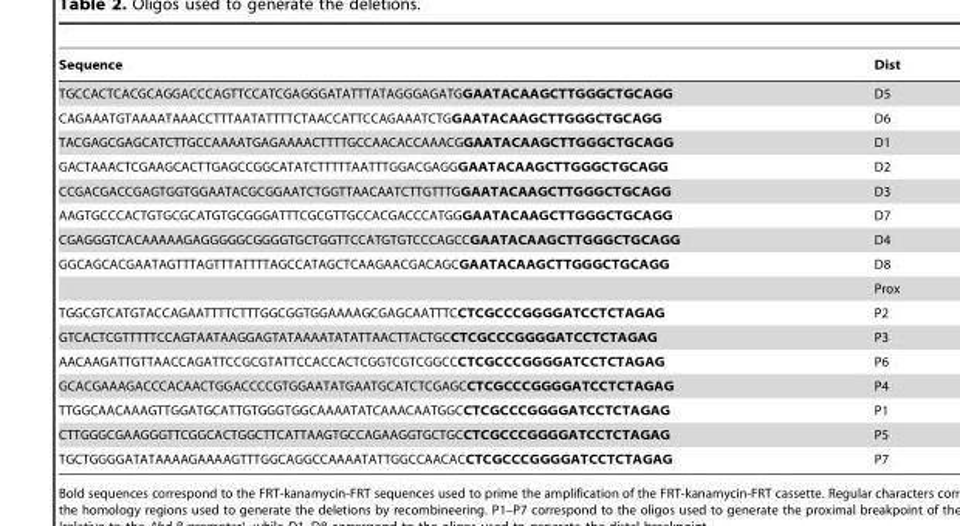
<table><thead><tr><td>Sequence</td><td>Dist</td></tr></thead><tbody><tr><td>TGCCACTCACGCAGGACCCAGTTCCATCGAGGGATATTTATAGGGAGATGGAATACAAGCTTGGGCTGCAGG</td><td>D5</td></tr><tr><td>CAGAAATGTAAAATAAACCTTTAATATTTTCTAACCATTCCAGAAATCTGGAATACAAGCTTGGGCTGCAGG</td><td>D6</td></tr><tr><td>TACGAGCGAGCATCTTGCCAAAATGAGAAAACTTTTGCCAACACCAAACGGAATACAAGCTTGGGCTGCAGG</td><td>D1</td></tr><tr><td>GACTAAACTCGAAGCACTTGAGCCGGCATATCTTTTTAATTTGGACGAGGGAATACAAGCTTGGGCTGCAGG</td><td>D2</td></tr><tr><td>CCGACGACCGAGTGGTGGAATACGCGGAATCTGGTTAACAATCTTGTTTGGAATACAAGCTTGGGCTGCAGG</td><td>D3</td></tr><tr><td>AAGTGCCCACTGTGCGCATGTGCGGGATTTCGCGTTGCCACGACCCATGGGAATACAAGCTTGGGCTGCAGG</td><td>D7</td></tr><tr><td>CGAGGGTCACAAAAAGAGGGGGCGGGGTGCTGGTTCCATGTGTCCCAGCCGAATACAAGCTTGGGCTGCAGG</td><td>D4</td></tr><tr><td rowspan="2">GGCAGCACGAATAGTTTAGTTTATTTTAGCCATAGCTCAAGAACGACAGCGAATACAAGCTTGGGCTGCAGG</td><td>D8</td></tr><tr><td>Prox</td></tr><tr><td>TGGCGTCATGTACCAGAATTTTCTTTGGCGGTGGAAAAGCGAGCAATTTCCTCGCCCGGGGATCCTCTAGAG</td><td>P2</td></tr><tr><td>GTCACTCGTTTTTCCAGTAATAAGGAGTATAAAATATATTAACTTACTGCCTCGCCCGGGGATCCTCTAGAG</td><td>P3</td></tr><tr><td>AACAAGATTGTTAACCAGATTCCGCGTATTCCACCACTCGGTCGTCGGCCCTCGCCCGGGGATCCTCTAGAG</td><td>P6</td></tr><tr><td>GCACGAAAGACCCACAACTGGACCCCGTGGAATATGAATGCATCTCGAGCCTCGCCCGGGGATCCTCTAGAG</td><td>P4</td></tr><tr><td>TTGGCAACAAAGTTGGATGCATTGTGGGTGGCAAAATATCAAACAATGGCCTCGCCCGGGGATCCTCTAGAG</td><td>P1</td></tr><tr><td>CTTGGGCGAAGGGTTCGGCACTGGCTTCATTAAGTGCCAGAAGGTGCTGCCTCGCCCGGGGATCCTCTAGAG</td><td>P5</td></tr><tr><td>TGCTGGGGATATAAAAGAAAAGTTTGGCAGGCCAAAATATTGGCCAACACCTCGCCCGGGGATCCTCTAGAG</td><td>P7</td></tr></tbody></table>